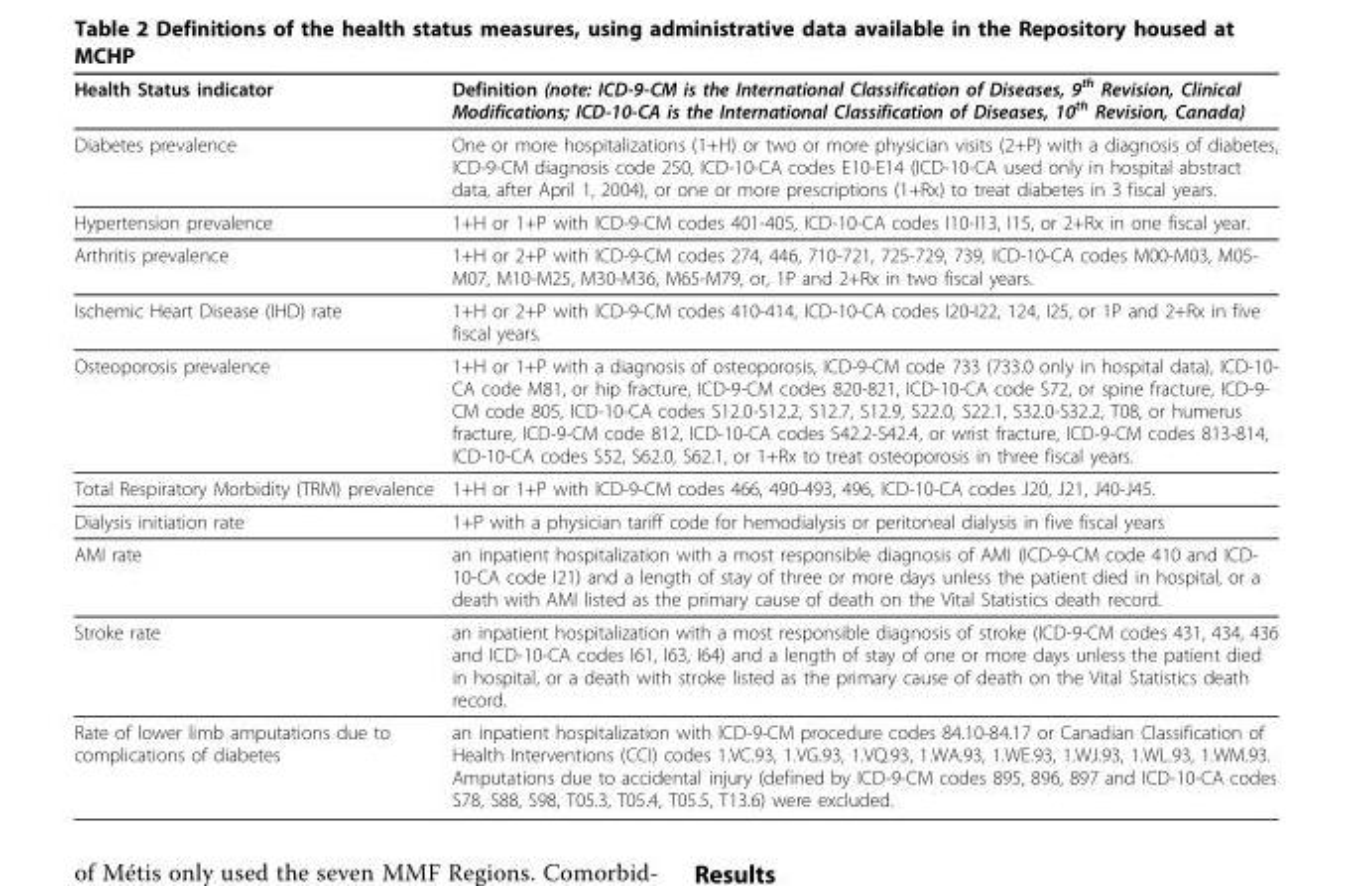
<table><thead><tr><td>Health Status indicator</td><td>Definition (note: ICD-9-CM is the International Classification of Diseases, 9<sup>th</sup> Revision, Clinical Modifications; ICD-10-CA is the International Classification of Diseases, 10<sup>th</sup> Revision, Canada)</td></tr></thead><tbody><tr><td>Diabetes prevalence</td><td>One or more hospitalizations (1+H) or two or more physician visits (2+P) with a diagnosis of diabetes, ICD-9-CM diagnosis code 250, ICD-10-CA codes E10-E14 (ICD-10-CA used only in hospital abstract data, after April 1, 2004), or one or more prescriptions (1+Rx) to treat diabetes in 3 fiscal years.</td></tr><tr><td>Hypertension prevalence</td><td>1+H or 1+P with ICD-9-CM codes 401-405, ICD-10-CA codes I10-I13, I15, or 2+Rx in one fiscal year.</td></tr><tr><td>Arthritis prevalence</td><td>1+H or 2+P with ICD-9-CM codes 274, 446, 710-721, 725-729, 739, ICD-10-CA codes M00-M03, M05- M07, M10-M25, M30-M36, M65-M79, or, 1P and 2+Rx in two fiscal years.</td></tr><tr><td>Ischemic Heart Disease (IHD) rate</td><td>1+H or 2+P with ICD-9-CM codes 410-414, ICD-10-CA codes I20-I22, 124, I25, or 1P and 2+Rx in five fiscal years.</td></tr><tr><td>Osteoporosis prevalence</td><td>1+H or 1+P with a diagnosis of osteoporosis, ICD-9-CM code 733 (733.0 only in hospital data), ICD-10- CA code M81, or hip fracture, ICD-9-CM codes 820-821, ICD-10-CA code S72, or spine fracture, ICD-9- CM code 805, ICD-10-CA codes S12.0-S12.2, S12.7, S12.9, S22.0, S22.1, S32.0-S32.2, T08, or humerus fracture, ICD-9-CM code 812, ICD-10-CA codes S42.2-S42.4, or wrist fracture, ICD-9-CM codes 813-814, ICD-10-CA codes S52, S62.0, S62.1, or 1+Rx to treat osteoporosis in three fiscal years.</td></tr><tr><td>Total Respiratory Morbidity (TRM) prevalence</td><td>1+H or 1+P with ICD-9-CM codes 466, 490-493, 496, ICD-10-CA codes J20, J21, J40-J45.</td></tr><tr><td>Dialysis initiation rate</td><td>1+P with a physician tariff code for hemodialysis or peritoneal dialysis in five fiscal years</td></tr><tr><td>AMI rate</td><td>an inpatient hospitalization with a most responsible diagnosis of AMI (ICD-9-CM code 410 and ICD- 10-CA code I21) and a length of stay of three or more days unless the patient died in hospital, or a death with AMI listed as the primary cause of death on the Vital Statistics death record.</td></tr><tr><td>Stroke rate</td><td>an inpatient hospitalization with a most responsible diagnosis of stroke (ICD-9-CM codes 431, 434, 436 and ICD-10-CA codes I61, I63, I64) and a length of stay of one or more days unless the patient died in hospital, or a death with stroke listed as the primary cause of death on the Vital Statistics death record.</td></tr><tr><td>Rate of lower limb amputations due to complications of diabetes</td><td>an inpatient hospitalization with ICD-9-CM procedure codes 84.10-84.17 or Canadian Classification of Health Interventions (CCI) codes 1.VC.93, 1.VG.93, 1.VQ.93, 1.WA.93, 1.WE.93, 1.WJ.93, 1.WL.93, 1.WM.93. Amputations due to accidental injury (defined by ICD-9-CM codes 895, 896, 897 and ICD-10-CA codes S78, S88, S98, T05.3, T05.4, T05.5, T13.6) were excluded.</td></tr></tbody></table>